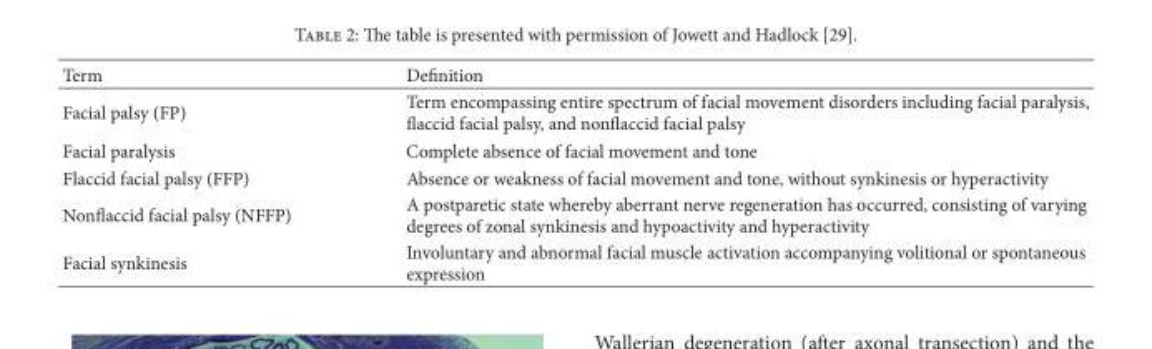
<table><thead><tr><td>Term</td><td>Definition</td></tr></thead><tbody><tr><td>Facial palsy (FP)</td><td>Term encompassing entire spectrum of facial movement disorders including facial paralysis, flaccid facial palsy, and nonflaccid facial palsy</td></tr><tr><td>Facial paralysis</td><td>Complete absence of facial movement and tone</td></tr><tr><td>Flaccid facial palsy (FFP)</td><td>Absence or weakness of facial movement and tone, without synkinesis or hyperactivity</td></tr><tr><td>Nonflaccid facial palsy (NFFP)</td><td>A postparetic state whereby aberrant nerve regeneration has occurred, consisting of varying degrees of zonal synkinesis and hypoactivity and hyperactivity</td></tr><tr><td>Facial synkinesis</td><td>Involuntary and abnormal facial muscle activation accompanying volitional or spontaneous expression</td></tr></tbody></table>